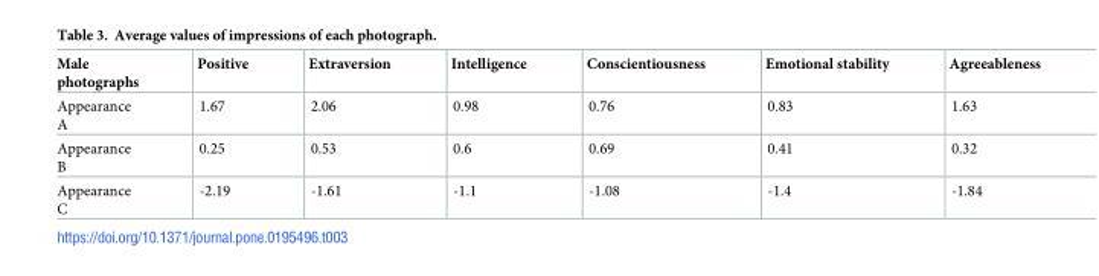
<table><thead><tr><td>Male photographs</td><td>Positive</td><td>Extraversion</td><td>Intelligence</td><td>Conscientiousness</td><td>Emotional stability</td><td>Agreeableness</td></tr></thead><tbody><tr><td>Appearance A</td><td>1.67</td><td>2.06</td><td>0.98</td><td>0.76</td><td>0.83</td><td>1.63</td></tr><tr><td>Appearance B</td><td>0.25</td><td>0.53</td><td>0.6</td><td>0.69</td><td>0.41</td><td>0.32</td></tr><tr><td>Appearance C</td><td>-2.19</td><td>-1.61</td><td>-1.1</td><td>-1.08</td><td>-1.4</td><td>-1.84</td></tr></tbody></table>